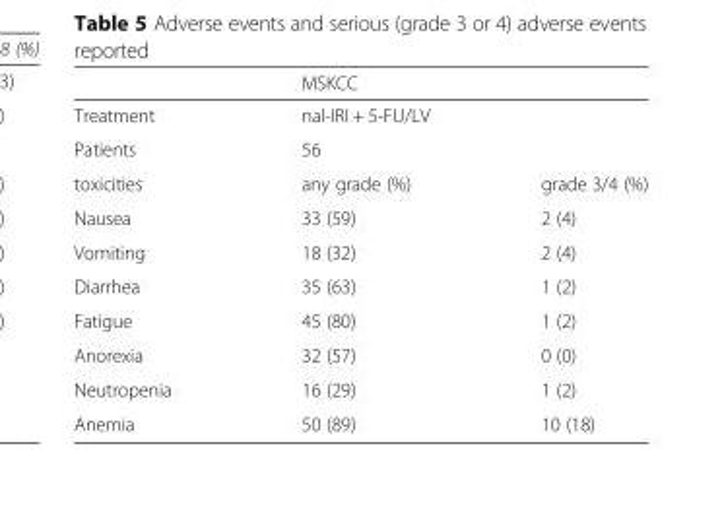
<table><thead><tr><td rowspan="4">Treatment Patients toxicities</td><td rowspan="3" colspan="2">MSKCC nal-IRI + 5-FU/LV 56</td></tr><tr></tr><tr></tr><tr><td>any grade (%)</td><td>grade 3/4 (%)</td></tr></thead><tbody><tr><td>Nausea</td><td>33 (59)</td><td>2 (4)</td></tr><tr><td>Vomiting</td><td>18 (32)</td><td>2 (4)</td></tr><tr><td>Diarrhea</td><td>35 (63)</td><td>1 (2)</td></tr><tr><td>Fatigue</td><td>45 (80)</td><td>1 (2)</td></tr><tr><td>Anorexia</td><td>32 (57)</td><td>0 (0)</td></tr><tr><td>Neutropenia</td><td>16 (29)</td><td>1 (2)</td></tr><tr><td>Anemia</td><td>50 (89)</td><td>10 (18)</td></tr></tbody></table>